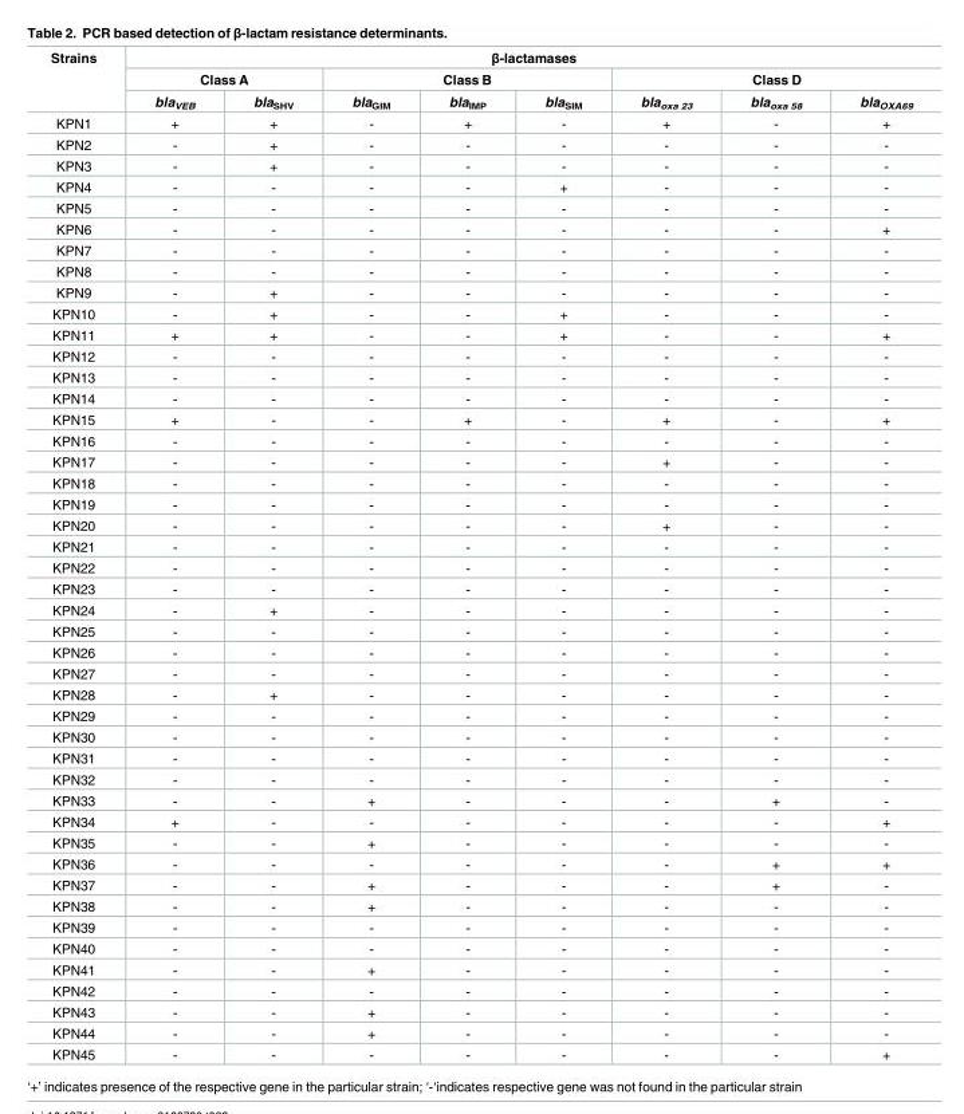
<table><thead><tr><td rowspan="3">Strains</td><td colspan="8">β-lactamases</td></tr><tr><td colspan="2">Class A</td><td colspan="3">Class B</td><td colspan="3">Class D</td></tr><tr><td>bla<sub>VEB</sub></td><td>bla<sub>SHV</sub></td><td>bla<sub>GIM</sub></td><td>bla<sub>IMP</sub></td><td>bla<sub>SIM</sub></td><td>bla<sub>oxa 23</sub></td><td>bla<sub>oxa 58</sub></td><td>bla<sub>OXA69</sub></td></tr></thead><tbody><tr><td>KPN1</td><td>+</td><td>+</td><td>-</td><td>+</td><td>-</td><td>+</td><td>-</td><td>+</td></tr><tr><td>KPN2</td><td>-</td><td>+</td><td>-</td><td>-</td><td>-</td><td>-</td><td>-</td><td>-</td></tr><tr><td>KPN3</td><td>-</td><td>+</td><td>-</td><td>-</td><td>-</td><td>-</td><td>-</td><td>-</td></tr><tr><td>KPN4</td><td>-</td><td>-</td><td>-</td><td>-</td><td>+</td><td>-</td><td>-</td><td>-</td></tr><tr><td>KPN5</td><td>-</td><td>-</td><td>-</td><td>-</td><td>-</td><td>-</td><td>-</td><td>-</td></tr><tr><td>KPN6</td><td>-</td><td>-</td><td>-</td><td>-</td><td>-</td><td>-</td><td>-</td><td>+</td></tr><tr><td>KPN7</td><td>-</td><td>-</td><td>-</td><td>-</td><td>-</td><td>-</td><td>-</td><td>-</td></tr><tr><td>KPN8</td><td>-</td><td>-</td><td>-</td><td>-</td><td>-</td><td>-</td><td>-</td><td>-</td></tr><tr><td>KPN9</td><td>-</td><td>+</td><td>-</td><td>-</td><td>-</td><td>-</td><td>-</td><td>-</td></tr><tr><td>KPN10</td><td>-</td><td>+</td><td>-</td><td>-</td><td>+</td><td>-</td><td>-</td><td>-</td></tr><tr><td>KPN11</td><td>+</td><td>+</td><td>-</td><td>-</td><td>+</td><td>-</td><td>-</td><td>+</td></tr><tr><td>KPN12</td><td>-</td><td>-</td><td>-</td><td>-</td><td>-</td><td>-</td><td>-</td><td>-</td></tr><tr><td>KPN13</td><td>-</td><td>-</td><td>-</td><td>-</td><td>-</td><td>-</td><td>-</td><td>-</td></tr><tr><td>KPN14</td><td>-</td><td>-</td><td>-</td><td>-</td><td>-</td><td>-</td><td>-</td><td>-</td></tr><tr><td>KPN15</td><td>+</td><td>-</td><td>-</td><td>+</td><td>-</td><td>+</td><td>-</td><td>+</td></tr><tr><td>KPN16</td><td>-</td><td>-</td><td>-</td><td>-</td><td>-</td><td>-</td><td>-</td><td>-</td></tr><tr><td>KPN17</td><td>-</td><td>-</td><td>-</td><td>-</td><td>-</td><td>+</td><td>-</td><td>-</td></tr><tr><td>KPN18</td><td>-</td><td>-</td><td>-</td><td>-</td><td>-</td><td>-</td><td>-</td><td>-</td></tr><tr><td>KPN19</td><td>-</td><td>-</td><td>-</td><td>-</td><td>-</td><td>-</td><td>-</td><td>-</td></tr><tr><td>KPN20</td><td>-</td><td>-</td><td>-</td><td>-</td><td>-</td><td>+</td><td>-</td><td>-</td></tr><tr><td>KPN21</td><td>-</td><td>-</td><td>-</td><td>-</td><td>-</td><td>-</td><td>-</td><td>-</td></tr><tr><td>KPN22</td><td>-</td><td>-</td><td>-</td><td>-</td><td>-</td><td>-</td><td>-</td><td>-</td></tr><tr><td>KPN23</td><td>-</td><td>-</td><td>-</td><td>-</td><td>-</td><td>-</td><td>-</td><td>-</td></tr><tr><td>KPN24</td><td>-</td><td>+</td><td>-</td><td>-</td><td>-</td><td>-</td><td>-</td><td>-</td></tr><tr><td>KPN25</td><td>-</td><td>-</td><td>-</td><td>-</td><td>-</td><td>-</td><td>-</td><td>-</td></tr><tr><td>KPN26</td><td>-</td><td>-</td><td>-</td><td>-</td><td>-</td><td>-</td><td>-</td><td>-</td></tr><tr><td>KPN27</td><td>-</td><td>-</td><td>-</td><td>-</td><td>-</td><td>-</td><td>-</td><td>-</td></tr><tr><td>KPN28</td><td>-</td><td>+</td><td>-</td><td>-</td><td>-</td><td>-</td><td>-</td><td>-</td></tr><tr><td>KPN29</td><td>-</td><td>-</td><td>-</td><td>-</td><td>-</td><td>-</td><td>-</td><td>-</td></tr><tr><td>KPN30</td><td>-</td><td>-</td><td>-</td><td>-</td><td>-</td><td>-</td><td>-</td><td>-</td></tr><tr><td>KPN31</td><td>-</td><td>-</td><td>-</td><td>-</td><td>-</td><td>-</td><td>-</td><td>-</td></tr><tr><td>KPN32</td><td>-</td><td>-</td><td>-</td><td>-</td><td>-</td><td>-</td><td>-</td><td>-</td></tr><tr><td>KPN33</td><td>-</td><td>-</td><td>+</td><td>-</td><td>-</td><td>-</td><td>+</td><td>-</td></tr><tr><td>KPN34</td><td>+</td><td>-</td><td>-</td><td>-</td><td>-</td><td>-</td><td>-</td><td>+</td></tr><tr><td>KPN35</td><td>-</td><td>-</td><td>+</td><td>-</td><td>-</td><td>-</td><td>-</td><td>-</td></tr><tr><td>KPN36</td><td>-</td><td>-</td><td>-</td><td>-</td><td>-</td><td>-</td><td>+</td><td>+</td></tr><tr><td>KPN37</td><td>-</td><td>-</td><td>+</td><td>-</td><td>-</td><td>-</td><td>+</td><td>-</td></tr><tr><td>KPN38</td><td>-</td><td>-</td><td>+</td><td>-</td><td>-</td><td>-</td><td>-</td><td>-</td></tr><tr><td>KPN39</td><td>-</td><td>-</td><td>-</td><td>-</td><td>-</td><td>-</td><td>-</td><td>-</td></tr><tr><td>KPN40</td><td>-</td><td>-</td><td>-</td><td>-</td><td>-</td><td>-</td><td>-</td><td>-</td></tr><tr><td>KPN41</td><td>-</td><td>-</td><td>+</td><td>-</td><td>-</td><td>-</td><td>-</td><td>-</td></tr><tr><td>KPN42</td><td>-</td><td>-</td><td>-</td><td>-</td><td>-</td><td>-</td><td>-</td><td>-</td></tr><tr><td>KPN43</td><td>-</td><td>-</td><td>+</td><td>-</td><td>-</td><td>-</td><td>-</td><td>-</td></tr><tr><td>KPN44</td><td>-</td><td>-</td><td>+</td><td>-</td><td>-</td><td>-</td><td>-</td><td>-</td></tr><tr><td>KPN45</td><td>-</td><td>-</td><td>-</td><td>-</td><td>-</td><td>-</td><td>-</td><td>+</td></tr></tbody></table>